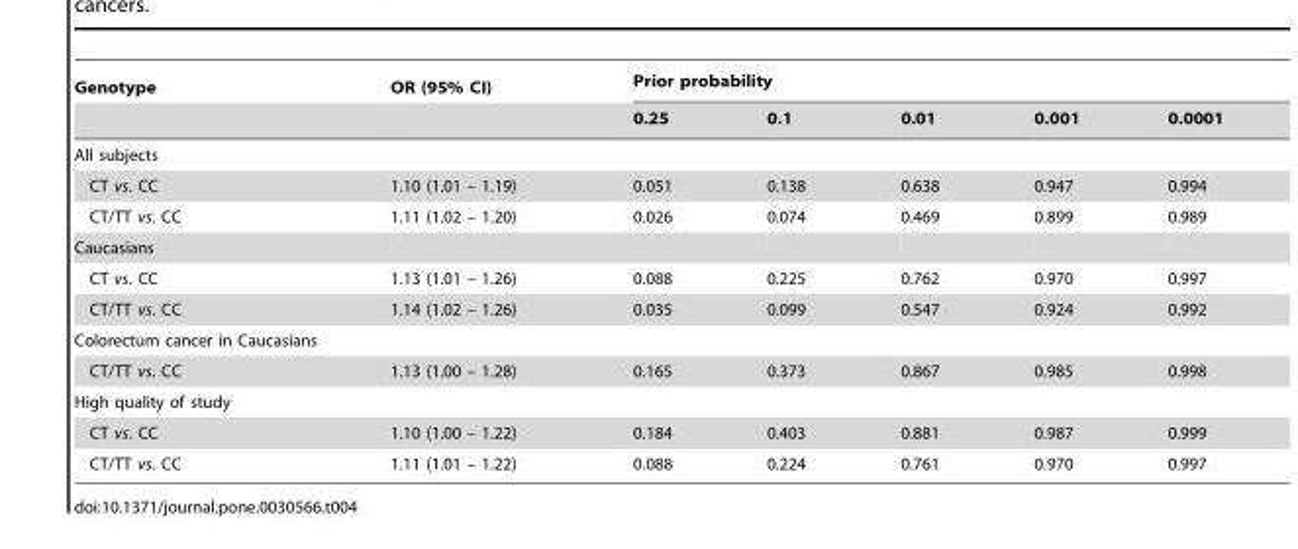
<table><thead><tr><td rowspan="2">Genotype</td><td rowspan="2">OR (95% CI)</td><td colspan="5">Prior probability</td></tr><tr><td>0.25</td><td>0.1</td><td>0.01</td><td>0.001</td><td>0.0001</td></tr></thead><tbody><tr><td colspan="7">All subjects</td></tr><tr><td>CT vs. CC</td><td>1.10 (1.01 – 1.19)</td><td>0.051</td><td>0.138</td><td>0.638</td><td>0.947</td><td>0.994</td></tr><tr><td>CT/TT vs. CC</td><td>1.11 (1.02 – 1.20)</td><td>0.026</td><td>0.074</td><td>0.469</td><td>0.899</td><td>0.989</td></tr><tr><td colspan="7">Caucasians</td></tr><tr><td>CT vs. CC</td><td>1.13 (1.01 – 1.26)</td><td>0.088</td><td>0.225</td><td>0.762</td><td>0.970</td><td>0.997</td></tr><tr><td>CT/TT vs. CC</td><td>1.14 (1.02 – 1.26)</td><td>0.035</td><td>0.099</td><td>0.547</td><td>0.924</td><td>0.992</td></tr><tr><td colspan="7">Colorectum cancer in Caucasians</td></tr><tr><td>CT/TT vs. CC</td><td>1.13 (1.00 – 1.28)</td><td>0.165</td><td>0.373</td><td>0.867</td><td>0.985</td><td>0.998</td></tr><tr><td colspan="7">High quality of study</td></tr><tr><td>CT vs. CC</td><td>1.10 (1.00 – 1.22)</td><td>0.184</td><td>0.403</td><td>0.881</td><td>0.987</td><td>0.999</td></tr><tr><td>CT/TT vs. CC</td><td>1.11 (1.01 – 1.22)</td><td>0.088</td><td>0.224</td><td>0.761</td><td>0.970</td><td>0.997</td></tr></tbody></table>